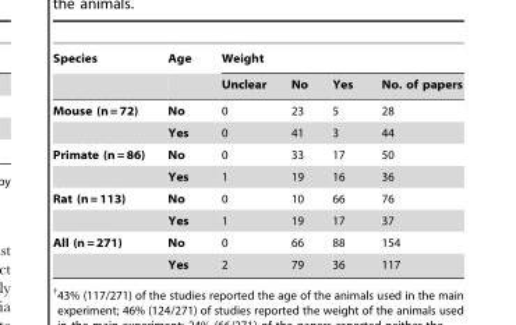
<table><thead><tr><td rowspan="2">Species</td><td rowspan="2">Age</td><td colspan="4">Weight</td></tr><tr><td>Unclear</td><td>No</td><td>Yes</td><td>No. of papers</td></tr></thead><tbody><tr><td rowspan="2">Mouse (n = 72)</td><td>No</td><td>0</td><td>23</td><td>5</td><td>28</td></tr><tr><td>Yes</td><td>0</td><td>41</td><td>3</td><td>44</td></tr><tr><td rowspan="2">Primate (n = 86)</td><td>No</td><td>0</td><td>33</td><td>17</td><td>50</td></tr><tr><td>Yes</td><td>1</td><td>19</td><td>16</td><td>36</td></tr><tr><td rowspan="2">Rat (n = 113)</td><td>No</td><td>0</td><td>10</td><td>66</td><td>76</td></tr><tr><td>Yes</td><td>1</td><td>19</td><td>17</td><td>37</td></tr><tr><td rowspan="2">All (n = 271)</td><td>No</td><td>0</td><td>66</td><td>88</td><td>154</td></tr><tr><td>Yes</td><td>2</td><td>79</td><td>36</td><td>117</td></tr></tbody></table>